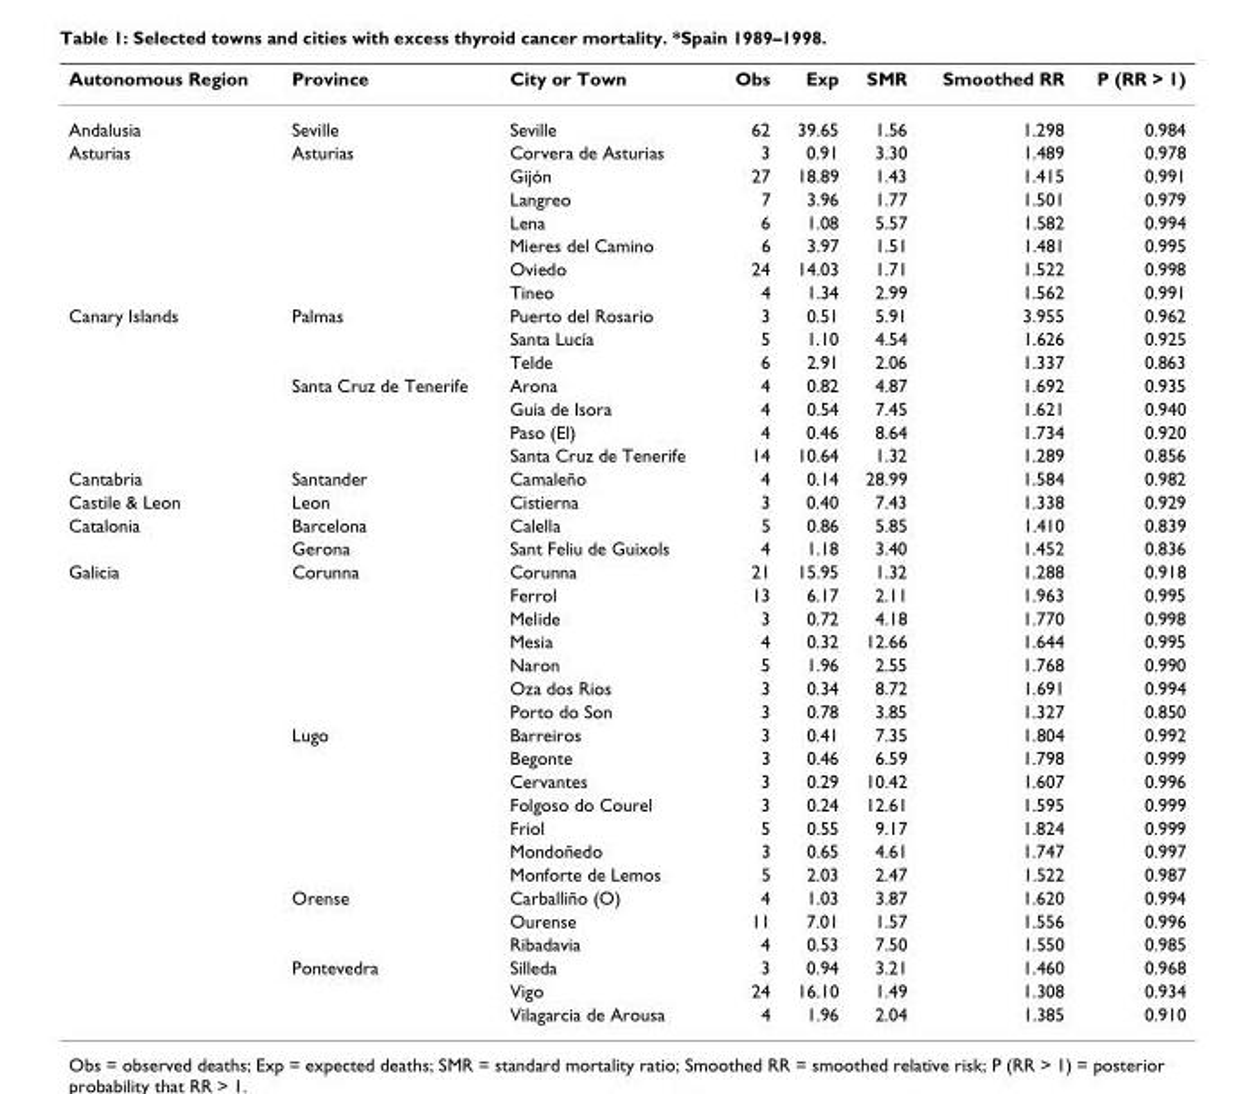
<table><thead><tr><td>Autonomous Region</td><td>Province</td><td>City or Town</td><td>Obs</td><td>Exp</td><td>SMR</td><td>Smoothed RR</td><td>P (RR &gt; 1)</td></tr></thead><tbody><tr><td>Andalusia</td><td>Seville</td><td>Seville</td><td>62</td><td>39.65</td><td>1.56</td><td>1.298</td><td>0.984</td></tr><tr><td rowspan="7">Asturias</td><td>Asturias</td><td>Corvera de Asturias</td><td>3</td><td>0.91</td><td>3.30</td><td>1.489</td><td>0.978</td></tr><tr><td></td><td>Gijón</td><td>27</td><td>18.89</td><td>1.43</td><td>1.415</td><td>0.991</td></tr><tr><td></td><td>Langreo</td><td>7</td><td>3.96</td><td>1.77</td><td>1.501</td><td>0.979</td></tr><tr><td></td><td>Lena</td><td>6</td><td>1.08</td><td>5.57</td><td>1.582</td><td>0.994</td></tr><tr><td></td><td>Mieres del Camino</td><td>6</td><td>3.97</td><td>1.51</td><td>1.481</td><td>0.995</td></tr><tr><td></td><td>Oviedo</td><td>24</td><td>14.03</td><td>1.71</td><td>1.522</td><td>0.998</td></tr><tr><td></td><td>Tineo</td><td>4</td><td>1.34</td><td>2.99</td><td>1.562</td><td>0.991</td></tr><tr><td rowspan="7">Canary Islands</td><td>Palmas</td><td>Puerto del Rosario</td><td>3</td><td>0.51</td><td>5.91</td><td>3.955</td><td>0.962</td></tr><tr><td></td><td>Santa Lucía</td><td>5</td><td>1.10</td><td>4.54</td><td>1.626</td><td>0.925</td></tr><tr><td></td><td>Telde</td><td>6</td><td>2.91</td><td>2.06</td><td>1.337</td><td>0.863</td></tr><tr><td>Santa Cruz de Tenerife</td><td>Arona</td><td>4</td><td>0.82</td><td>4.87</td><td>1.692</td><td>0.935</td></tr><tr><td></td><td>Guia de Isora</td><td>4</td><td>0.54</td><td>7.45</td><td>1.621</td><td>0.940</td></tr><tr><td></td><td>Paso (El)</td><td>4</td><td>0.46</td><td>8.64</td><td>1.734</td><td>0.920</td></tr><tr><td></td><td>Santa Cruz de Tenerife</td><td>14</td><td>10.64</td><td>1.32</td><td>1.289</td><td>0.856</td></tr><tr><td>Cantabria</td><td>Santander</td><td>Camaleño</td><td>4</td><td>0.14</td><td>28.99</td><td>1.584</td><td>0.982</td></tr><tr><td>Castile &amp; Leon</td><td>Leon</td><td>Cistierna</td><td>3</td><td>0.40</td><td>7.43</td><td>1.338</td><td>0.929</td></tr><tr><td rowspan="2">Catalonia</td><td>Barcelona</td><td>Calella</td><td>5</td><td>0.86</td><td>5.85</td><td>1.410</td><td>0.839</td></tr><tr><td>Gerona</td><td>Sant Feliu de Guixols</td><td>4</td><td>1.18</td><td>3.40</td><td>1.452</td><td>0.836</td></tr><tr><td rowspan="20">Galicia</td><td>Corunna</td><td>Corunna</td><td>21</td><td>15.95</td><td>1.32</td><td>1.288</td><td>0.918</td></tr><tr><td></td><td>Ferrol</td><td>13</td><td>6.17</td><td>2.11</td><td>1.963</td><td>0.995</td></tr><tr><td></td><td>Melide</td><td>3</td><td>0.72</td><td>4.18</td><td>1.770</td><td>0.998</td></tr><tr><td></td><td>Mesia</td><td>4</td><td>0.32</td><td>12.66</td><td>1.644</td><td>0.995</td></tr><tr><td></td><td>Naron</td><td>5</td><td>1.96</td><td>2.55</td><td>1.768</td><td>0.990</td></tr><tr><td></td><td>Oza dos Rios</td><td>3</td><td>0.34</td><td>8.72</td><td>1.691</td><td>0.994</td></tr><tr><td></td><td>Porto do Son</td><td>3</td><td>0.78</td><td>3.85</td><td>1.327</td><td>0.850</td></tr><tr><td>Lugo</td><td>Barreiros</td><td>3</td><td>0.41</td><td>7.35</td><td>1.804</td><td>0.992</td></tr><tr><td></td><td>Begonte</td><td>3</td><td>0.46</td><td>6.59</td><td>1.798</td><td>0.999</td></tr><tr><td></td><td>Cervantes</td><td>3</td><td>0.29</td><td>10.42</td><td>1.607</td><td>0.996</td></tr><tr><td></td><td>Folgoso do Courel</td><td>3</td><td>0.24</td><td>12.61</td><td>1.595</td><td>0.999</td></tr><tr><td></td><td>Friol</td><td>5</td><td>0.55</td><td>9.17</td><td>1.824</td><td>0.999</td></tr><tr><td></td><td>Mondoñedo</td><td>3</td><td>0.65</td><td>4.61</td><td>1.747</td><td>0.997</td></tr><tr><td></td><td>Monforte de Lemos</td><td>5</td><td>2.03</td><td>2.47</td><td>1.522</td><td>0.987</td></tr><tr><td>Orense</td><td>Carballiño (O)</td><td>4</td><td>1.03</td><td>3.87</td><td>1.620</td><td>0.994</td></tr><tr><td></td><td>Ourense</td><td>11</td><td>7.01</td><td>1.57</td><td>1.556</td><td>0.996</td></tr><tr><td></td><td>Ribadavia</td><td>4</td><td>0.53</td><td>7.50</td><td>1.550</td><td>0.985</td></tr><tr><td>Pontevedra</td><td>Silleda</td><td>3</td><td>0.94</td><td>3.21</td><td>1.460</td><td>0.968</td></tr><tr><td></td><td>Vigo</td><td>24</td><td>16.10</td><td>1.49</td><td>1.308</td><td>0.934</td></tr><tr><td></td><td>Vilagarcia de Arousa</td><td>4</td><td>1.96</td><td>2.04</td><td>1.385</td><td>0.910</td></tr></tbody></table>